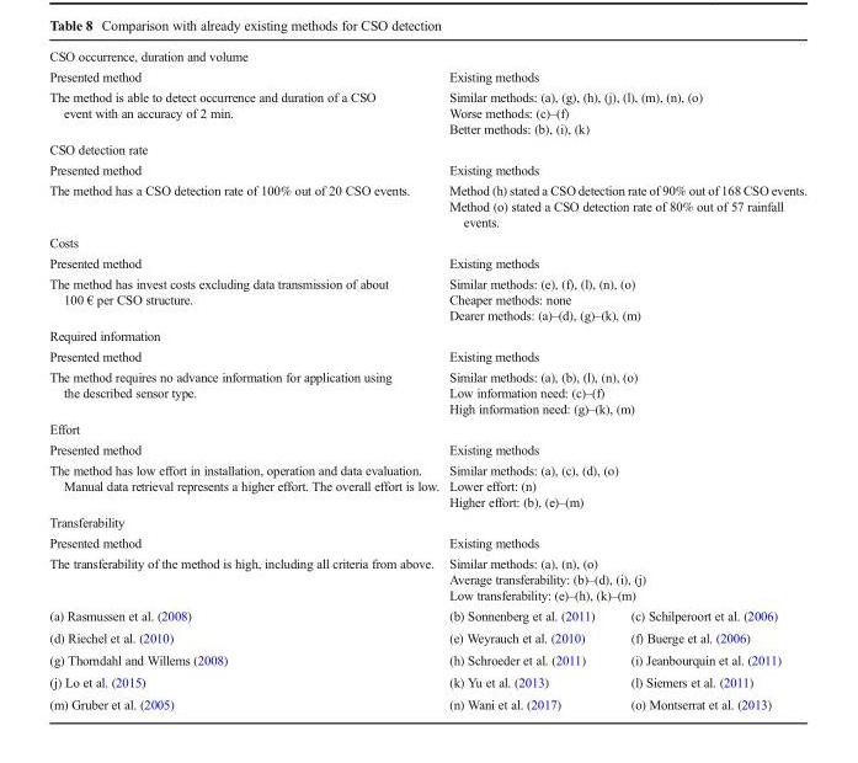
<table><tbody><tr><td colspan="3">CSO occurrence, duration and volume</td></tr><tr><td>Presented method</td><td colspan="2">Existing methods</td></tr><tr><td>The method is able to detect occurrence and duration of a CSO event with an accuracy of 2 min.</td><td colspan="2">Similar methods: (a), (g), (h), (j), (l), (m), (n), (o) Worse methods: (c)–(f) Better methods: (b), (i), (k)</td></tr><tr><td colspan="3">CSO detection rate</td></tr><tr><td>Presented method</td><td colspan="2">Existing methods</td></tr><tr><td>The method has a CSO detection rate of 100% out of 20 CSO events.</td><td colspan="2">Method (h) stated a CSO detection rate of 90% out of 168 CSO events. Method (o) stated a CSO detection rate of 80% out of 57 rainfall events.</td></tr><tr><td colspan="3">Costs</td></tr><tr><td>Presented method</td><td colspan="2">Existing methods</td></tr><tr><td>The method has invest costs excluding data transmission of about 100 € per CSO structure.</td><td colspan="2">Similar methods: (e), (f), (l), (n), (o) Cheaper methods: none Dearer methods: (a)–(d), (g)–(k), (m)</td></tr><tr><td colspan="3">Required information</td></tr><tr><td>Presented method</td><td colspan="2">Existing methods</td></tr><tr><td>The method requires no advance information for application using the described sensor type.</td><td colspan="2">Similar methods: (a), (b), (l), (n), (o) Low information need: (c)–(f) High information need: (g)–(k), (m)</td></tr><tr><td colspan="3">Effort</td></tr><tr><td>Presented method</td><td colspan="2">Existing methods</td></tr><tr><td>The method has low effort in installation, operation and data evaluation. Manual data retrieval represents a higher effort. The overall effort is low.</td><td colspan="2">Similar methods: (a), (c), (d), (o) Lower effort: (n) Higher effort: (b), (e)–(m)</td></tr><tr><td colspan="3">Transferability</td></tr><tr><td>Presented method</td><td colspan="2">Existing methods</td></tr><tr><td>The transferability of the method is high, including all criteria from above.</td><td colspan="2">Similar methods: (a), (n), (o) Average transferability: (b)–(d), (i), (j) Low transferability: (e)–(h), (k)–(m)</td></tr><tr><td>(a) Rasmussen et al. (2008)</td><td>(b) Sonnenberg et al. (2011)</td><td>(c) Schilperoort et al. (2006)</td></tr><tr><td>(d) Riechel et al. (2010)</td><td>(e) Weyrauch et al. (2010)</td><td>(f) Buerge et al. (2006)</td></tr><tr><td>(g) Thorndahl and Willems (2008)</td><td>(h) Schroeder et al. (2011)</td><td>(i) Jeanbourquin et al. (2011)</td></tr><tr><td>(j) Lo et al. (2015)</td><td>(k) Yu et al. (2013)</td><td>(l) Siemers et al. (2011)</td></tr><tr><td>(m) Gruber et al. (2005)</td><td>(n) Wani et al. (2017)</td><td>(o) Montserrat et al. (2013)</td></tr></tbody></table>